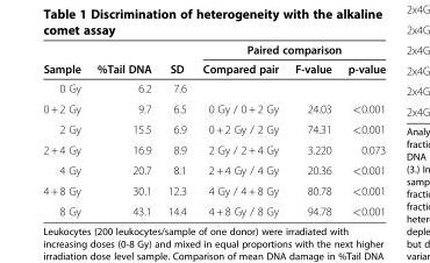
<table><thead><tr><td rowspan="2">Sample</td><td rowspan="2">%Tail DNA</td><td rowspan="2">SD</td><td colspan="3">Paired comparison</td></tr><tr><td>Compared pair</td><td>F-value</td><td>p-value</td></tr></thead><tbody><tr><td>0 Gy</td><td>6.2</td><td>7.6</td><td></td><td></td><td></td></tr><tr><td>0 + 2 Gy</td><td>9.7</td><td>6.5</td><td>0 Gy / 0 + 2 Gy</td><td>24.03</td><td>&lt;0.001</td></tr><tr><td>2 Gy</td><td>15.5</td><td>6.9</td><td>0 + 2 Gy / 2 Gy</td><td>74.31</td><td>&lt;0.001</td></tr><tr><td>2 + 4 Gy</td><td>16.9</td><td>8.9</td><td>2 Gy / 2 + 4 Gy</td><td>3.220</td><td>0.073</td></tr><tr><td>4 Gy</td><td>20.7</td><td>8.1</td><td>2 + 4 Gy / 4 Gy</td><td>20.36</td><td>&lt;0.001</td></tr><tr><td>4 + 8 Gy</td><td>30.1</td><td>12.3</td><td>4 Gy / 4 + 8 Gy</td><td>80.78</td><td>&lt;0.001</td></tr><tr><td>8 Gy</td><td>43.1</td><td>14.4</td><td>4 + 8 Gy / 8 Gy</td><td>94.78</td><td>&lt;0.001</td></tr></tbody></table>